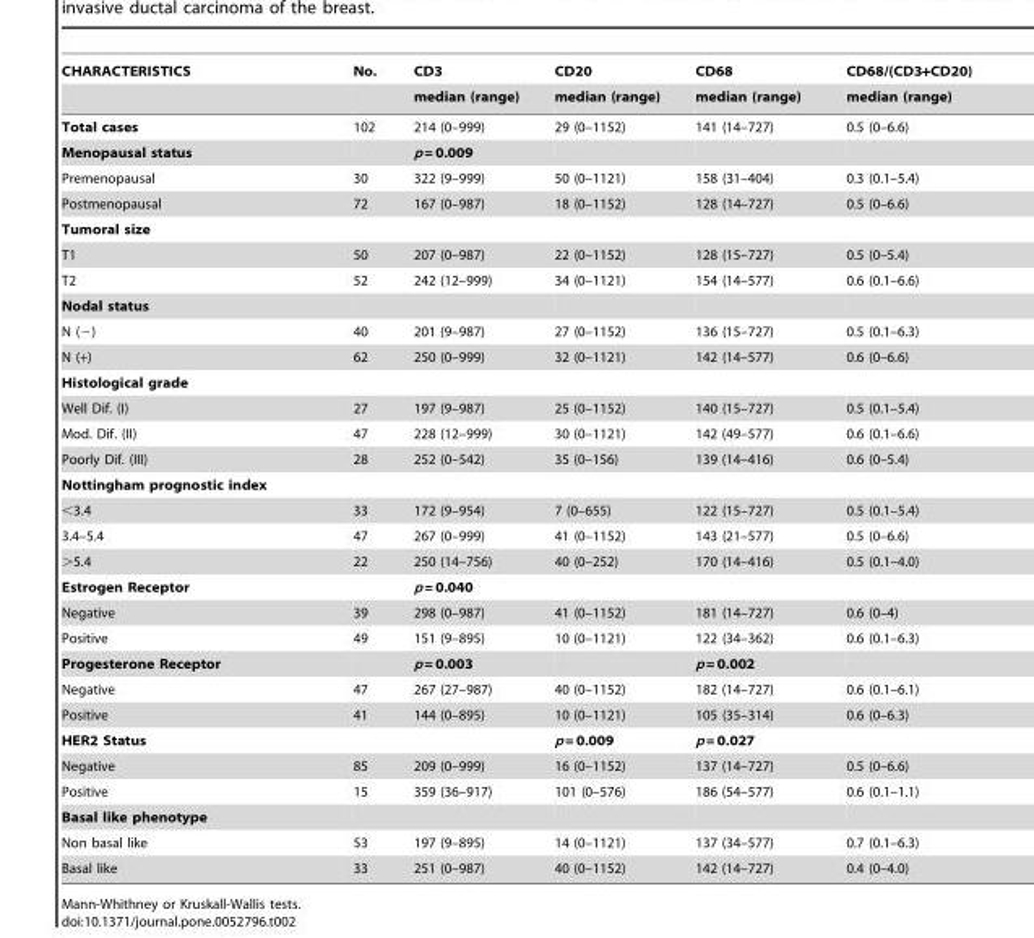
<table><thead><tr><td rowspan="2">CHARACTERISTICS</td><td rowspan="2">No.</td><td rowspan="2">CD3 median (range)</td><td rowspan="2">CD20 median (range)</td><td rowspan="2">CD68 median (range)</td><td rowspan="2">CD68/(CD3+CD20) median (range)</td></tr><tr></tr></thead><tbody><tr><td>Total cases</td><td>102</td><td>214 (0–999)</td><td>29 (0–1152)</td><td>141 (14–727)</td><td>0.5 (0–6.6)</td></tr><tr><td>Menopausal status</td><td></td><td>p = 0.009</td><td></td><td></td><td></td></tr><tr><td>Premenopausal</td><td>30</td><td>322 (9–999)</td><td>50 (0–1121)</td><td>158 (31–404)</td><td>0.3 (0.1–5.4)</td></tr><tr><td>Postmenopausal</td><td>72</td><td>167 (0–987)</td><td>18 (0–1152)</td><td>128 (14–727)</td><td>0.5 (0–6.6)</td></tr><tr><td colspan="6">Tumoral size</td></tr><tr><td>T1</td><td>50</td><td>207 (0–987)</td><td>22 (0–1152)</td><td>128 (15–727)</td><td>0.5 (0–5.4)</td></tr><tr><td>T2</td><td>52</td><td>242 (12–999)</td><td>34 (0–1121)</td><td>154 (14–577)</td><td>0.6 (0.1–6.6)</td></tr><tr><td colspan="6">Nodal status</td></tr><tr><td>N (−)</td><td>40</td><td>201 (9–987)</td><td>27 (0–1152)</td><td>136 (15–727)</td><td>0.5 (0.1–6.3)</td></tr><tr><td>N (+)</td><td>62</td><td>250 (0–999)</td><td>32 (0–1121)</td><td>142 (14–577)</td><td>0.6 (0–6.6)</td></tr><tr><td colspan="6">Histological grade</td></tr><tr><td>Well Dif. (I)</td><td>27</td><td>197 (9–987)</td><td>25 (0–1152)</td><td>140 (15–727)</td><td>0.5 (0.1–5.4)</td></tr><tr><td>Mod. Dif. (II)</td><td>47</td><td>228 (12–999)</td><td>30 (0–1121)</td><td>142 (49–577)</td><td>0.6 (0.1–6.6)</td></tr><tr><td>Poorly Dif. (III)</td><td>28</td><td>252 (0–542)</td><td>35 (0–156)</td><td>139 (14–416)</td><td>0.6 (0–5.4)</td></tr><tr><td colspan="6">Nottingham prognostic index</td></tr><tr><td>&lt;3.4</td><td>33</td><td>172 (9–954)</td><td>7 (0–655)</td><td>122 (15–727)</td><td>0.5 (0.1–5.4)</td></tr><tr><td>3.4–5.4</td><td>47</td><td>267 (0–999)</td><td>41 (0–1152)</td><td>143 (21–577)</td><td>0.5 (0–6.6)</td></tr><tr><td>&gt;5.4</td><td>22</td><td>250 (14–756)</td><td>40 (0–252)</td><td>170 (14–416)</td><td>0.5 (0.1–4.0)</td></tr><tr><td>Estrogen Receptor</td><td></td><td>p = 0.040</td><td></td><td></td><td></td></tr><tr><td>Negative</td><td>39</td><td>298 (0–987)</td><td>41 (0–1152)</td><td>181 (14–727)</td><td>0.6 (0–4)</td></tr><tr><td>Positive</td><td>49</td><td>151 (9–895)</td><td>10 (0–1121)</td><td>122 (34–362)</td><td>0.6 (0.1–6.3)</td></tr><tr><td>Progesterone Receptor</td><td></td><td>p = 0.003</td><td></td><td>p = 0.002</td><td></td></tr><tr><td>Negative</td><td>47</td><td>267 (27–987)</td><td>40 (0–1152)</td><td>182 (14–727)</td><td>0.6 (0.1–6.1)</td></tr><tr><td>Positive</td><td>41</td><td>144 (0–895)</td><td>10 (0–1121)</td><td>105 (35–314)</td><td>0.6 (0–6.3)</td></tr><tr><td>HER2 Status</td><td></td><td></td><td>p = 0.009</td><td>p = 0.027</td><td></td></tr><tr><td>Negative</td><td>85</td><td>209 (0–999)</td><td>16 (0–1152)</td><td>137 (14–727)</td><td>0.5 (0–6.6)</td></tr><tr><td>Positive</td><td>15</td><td>359 (36–917)</td><td>101 (0–576)</td><td>186 (54–577)</td><td>0.6 (0.1–1.1)</td></tr><tr><td colspan="6">Basal like phenotype</td></tr><tr><td>Non basal like</td><td>53</td><td>197 (9–895)</td><td>14 (0–1121)</td><td>137 (34–577)</td><td>0.7 (0.1–6.3)</td></tr><tr><td>Basal like</td><td>33</td><td>251 (0–987)</td><td>40 (0–1152)</td><td>142 (14–727)</td><td>0.4 (0–4.0)</td></tr></tbody></table>